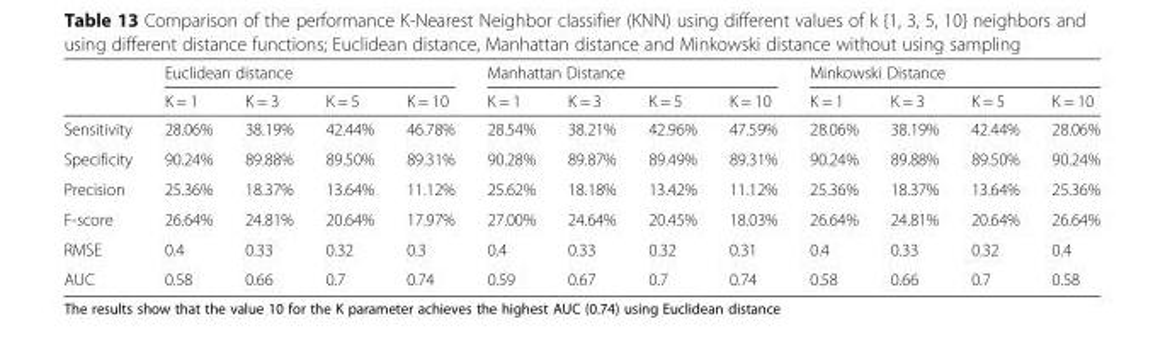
<table><thead><tr><td rowspan="2"></td><td colspan="4">Euclidean distance</td><td colspan="4">Manhattan Distance</td><td colspan="4">Minkowski Distance</td></tr><tr><td>K = 1</td><td>K = 3</td><td>K = 5</td><td>K = 10</td><td>K = 1</td><td>K = 3</td><td>K = 5</td><td>K = 10</td><td>K = 1</td><td>K = 3</td><td>K = 5</td><td>K = 10</td></tr></thead><tbody><tr><td>Sensitivity</td><td>28.06%</td><td>38.19%</td><td>42.44%</td><td>46.78%</td><td>28.54%</td><td>38.21%</td><td>42.96%</td><td>47.59%</td><td>28.06%</td><td>38.19%</td><td>42.44%</td><td>28.06%</td></tr><tr><td>Specificity</td><td>90.24%</td><td>89.88%</td><td>89.50%</td><td>89.31%</td><td>90.28%</td><td>89.87%</td><td>89.49%</td><td>89.31%</td><td>90.24%</td><td>89.88%</td><td>89.50%</td><td>90.24%</td></tr><tr><td>Precision</td><td>25.36%</td><td>18.37%</td><td>13.64%</td><td>11.12%</td><td>25.62%</td><td>18.18%</td><td>13.42%</td><td>11.12%</td><td>25.36%</td><td>18.37%</td><td>13.64%</td><td>25.36%</td></tr><tr><td>F-score</td><td>26.64%</td><td>24.81%</td><td>20.64%</td><td>17.97%</td><td>27.00%</td><td>24.64%</td><td>20.45%</td><td>18.03%</td><td>26.64%</td><td>24.81%</td><td>20.64%</td><td>26.64%</td></tr><tr><td>RMSE</td><td>0.4</td><td>0.33</td><td>0.32</td><td>0.3</td><td>0.4</td><td>0.33</td><td>0.32</td><td>0.31</td><td>0.4</td><td>0.33</td><td>0.32</td><td>0.4</td></tr><tr><td>AUC</td><td>0.58</td><td>0.66</td><td>0.7</td><td>0.74</td><td>0.59</td><td>0.67</td><td>0.7</td><td>0.74</td><td>0.58</td><td>0.66</td><td>0.7</td><td>0.58</td></tr></tbody></table>